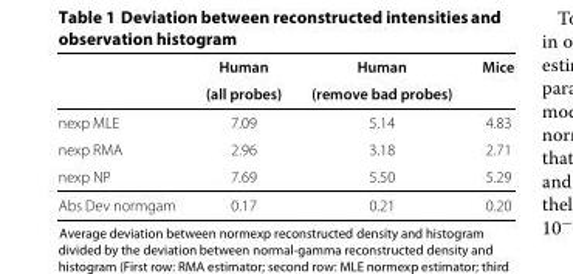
<table><thead><tr><td rowspan="2"></td><td rowspan="2">Human (all probes)</td><td rowspan="2">Human (remove bad probes)</td><td rowspan="2">Mice</td></tr><tr></tr></thead><tbody><tr><td>nexp MLE</td><td>7.09</td><td>5.14</td><td>4.83</td></tr><tr><td>nexp RMA</td><td>2.96</td><td>3.18</td><td>2.71</td></tr><tr><td>nexp NP</td><td>7.69</td><td>5.50</td><td>5.29</td></tr><tr><td>Abs Dev normgam</td><td>0.17</td><td>0.21</td><td>0.20</td></tr></tbody></table>